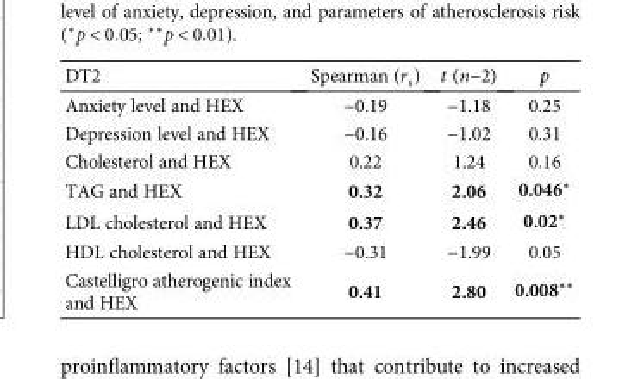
<table><thead><tr><td>DT2</td><td>Spearman (r<sub>s</sub>)</td><td>t (n−2)</td><td>p</td></tr></thead><tbody><tr><td>Anxiety level and HEX</td><td>−0.19</td><td>−1.18</td><td>0.25</td></tr><tr><td>Depression level and HEX</td><td>−0.16</td><td>−1.02</td><td>0.31</td></tr><tr><td>Cholesterol and HEX</td><td>0.22</td><td>1.24</td><td>0.16</td></tr><tr><td>TAG and HEX</td><td>0.32</td><td>2.06</td><td>0.046∗</td></tr><tr><td>LDL cholesterol and HEX</td><td>0.37</td><td>2.46</td><td>0.02∗</td></tr><tr><td>HDL cholesterol and HEX</td><td>−0.31</td><td>−1.99</td><td>0.05</td></tr><tr><td>Castelligro atherogenic index and HEX</td><td>0.41</td><td>2.80</td><td>0.008∗∗</td></tr></tbody></table>